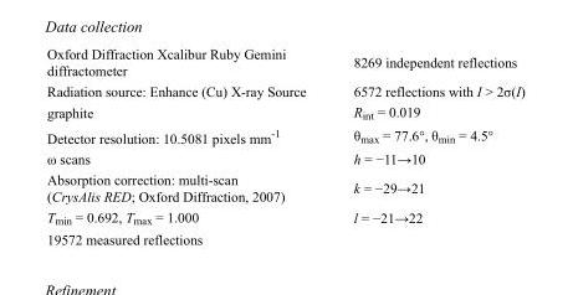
<table><tbody><tr><td>Oxford Diffraction Xcalibur Ruby Gemini diffractometer</td><td>8269 independent reflections</td></tr><tr><td>Radiation source: Enhance (Cu) X-ray Source</td><td>6572 reflections with I &gt; 2σ(I)</td></tr><tr><td>graphite</td><td>R<sub>int</sub> = 0.019</td></tr><tr><td>Detector resolution: 10.5081 pixels mm<sup>-1</sup></td><td>θ<sub>max</sub> = 77.6°, θ<sub>min</sub> = 4.5°</td></tr><tr><td>ω scans</td><td>h = −11→10</td></tr><tr><td>Absorption correction: multi-scan (CrysAlis RED; Oxford Diffraction, 2007)</td><td>k = −29→21</td></tr><tr><td>T<sub>min</sub> = 0.692, T<sub>max</sub> = 1.000</td><td>l = −21→22</td></tr><tr><td>19572 measured reflections</td><td></td></tr></tbody></table>